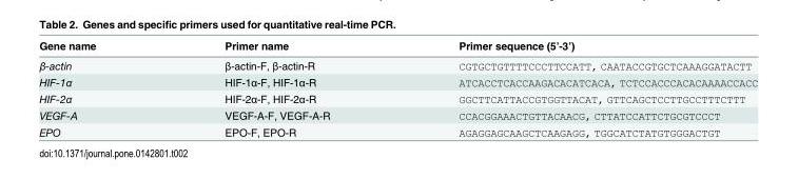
<table><thead><tr><td>Gene name</td><td>Primer name</td><td>Primer sequence (5’-3’)</td></tr></thead><tbody><tr><td>β-actin</td><td>β-actin-F, β-actin-R</td><td>CGTGCTGTTTTCCCTTCCATT, CAATACCGTGCTCAAAGGATACTT</td></tr><tr><td>HIF-1α</td><td>HIF-1α-F, HIF-1α-R</td><td>ATCACCTCACCAAGACACATCACA, TCTCCACCCACACAAAACCACC</td></tr><tr><td>HIF-2α</td><td>HIF-2α-F, HIF-2α-R</td><td>GGCTTCATTACCGTGGTTACAT, GTTCAGCTCCTTGCCTTTCTTT</td></tr><tr><td>VEGF-A</td><td>VEGF-A-F, VEGF-A-R</td><td>CCACGGAAACTGTTACAACG, CTTATCCATTCTGCGTCCCT</td></tr><tr><td>EPO</td><td>EPO-F, EPO-R</td><td>AGAGGAGCAAGCTCAAGAGG, TGGCATCTATGTGGGACTGT</td></tr></tbody></table>